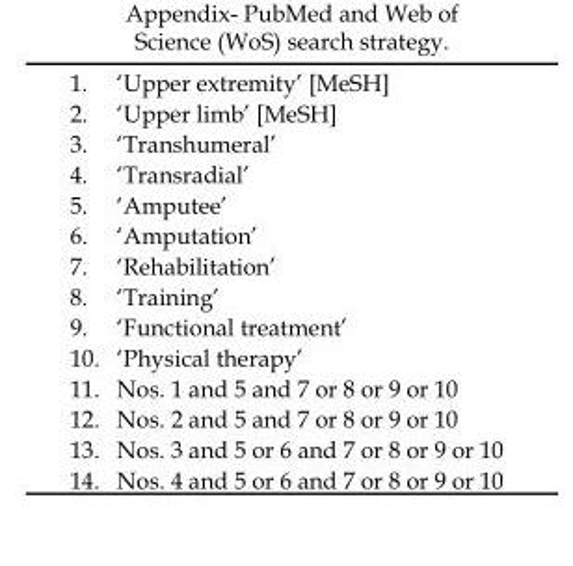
<table><tbody><tr><td>1.</td><td>‘Upper extremity’ [MeSH]</td></tr><tr><td>2.</td><td>‘Upper limb’ [MeSH]</td></tr><tr><td>3.</td><td>‘Transhumeral’</td></tr><tr><td>4.</td><td>‘Transradial’</td></tr><tr><td>5.</td><td>‘Amputee’</td></tr><tr><td>6.</td><td>‘Amputation’</td></tr><tr><td>7.</td><td>‘Rehabilitation’</td></tr><tr><td>8.</td><td>‘Training’</td></tr><tr><td>9.</td><td>‘Functional treatment’</td></tr><tr><td>10.</td><td>‘Physical therapy’</td></tr><tr><td>11.</td><td>Nos. 1 and 5 and 7 or 8 or 9 or 10</td></tr><tr><td>12.</td><td>Nos. 2 and 5 and 7 or 8 or 9 or 10</td></tr><tr><td>13.</td><td>Nos. 3 and 5 or 6 and 7 or 8 or 9 or 10</td></tr><tr><td>14.</td><td>Nos. 4 and 5 or 6 and 7 or 8 or 9 or 10</td></tr></tbody></table>